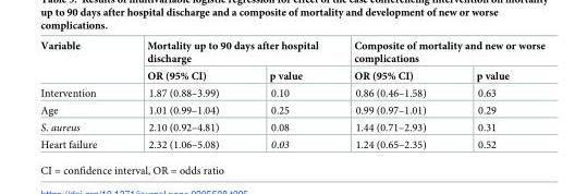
<table><thead><tr><td rowspan="2">Variable</td><td colspan="2">Mortality up to 90 days after hospital discharge</td><td colspan="2">Composite of mortality and new or worse complications</td></tr><tr><td>OR (95% CI)</td><td>p value</td><td>OR (95% CI)</td><td>p value</td></tr></thead><tbody><tr><td>Intervention</td><td>1.87 (0.88–3.99)</td><td>0.10</td><td>0.86 (0.46–1.58)</td><td>0.63</td></tr><tr><td>Age</td><td>1.01 (0.99–1.04)</td><td>0.25</td><td>0.99 (0.97–1.01)</td><td>0.29</td></tr><tr><td>S. aureus</td><td>2.10 (0.92–4.81)</td><td>0.08</td><td>1.44 (0.71–2.93)</td><td>0.31</td></tr><tr><td>Heart failure</td><td>2.32 (1.06–5.08)</td><td>0.03</td><td>1.24 (0.65–2.35)</td><td>0.52</td></tr></tbody></table>